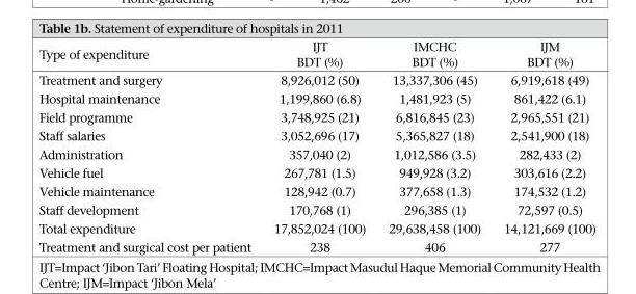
<table><thead><tr><td>Type of expenditure</td><td>IJT BDT (%)</td><td>IMCHC BDT (%)</td><td>IJM BDT (%)</td></tr></thead><tbody><tr><td>Treatment and surgery</td><td>8,926,012 (50)</td><td>13,337,306 (45)</td><td>6,919,618 (49)</td></tr><tr><td>Hospital maintenance</td><td>1,199,860 (6.8)</td><td>1,481,923 (5)</td><td>861,422 (6.1)</td></tr><tr><td>Field programme</td><td>3,748,925 (21)</td><td>6,816,845 (23)</td><td>2,965,551 (21)</td></tr><tr><td>Staff salaries</td><td>3,052,696 (17)</td><td>5,365,827 (18)</td><td>2,541,900 (18)</td></tr><tr><td>Administration</td><td>357,040 (2)</td><td>1,012,586 (3.5)</td><td>282,433 (2)</td></tr><tr><td>Vehicle fuel</td><td>267,781 (1.5)</td><td>949,928 (3.2)</td><td>303,616 (2.2)</td></tr><tr><td>Vehicle maintenance</td><td>128,942 (0.7)</td><td>377,658 (1.3)</td><td>174,532 (1.2)</td></tr><tr><td>Staff development</td><td>170,768 (1)</td><td>296,385 (1)</td><td>72,597 (0.5)</td></tr><tr><td>Total expenditure</td><td>17,852,024 (100)</td><td>29,638,458 (100)</td><td>14,121,669 (100)</td></tr><tr><td>Treatment and surgical cost per patient</td><td>238</td><td>406</td><td>277</td></tr></tbody></table>